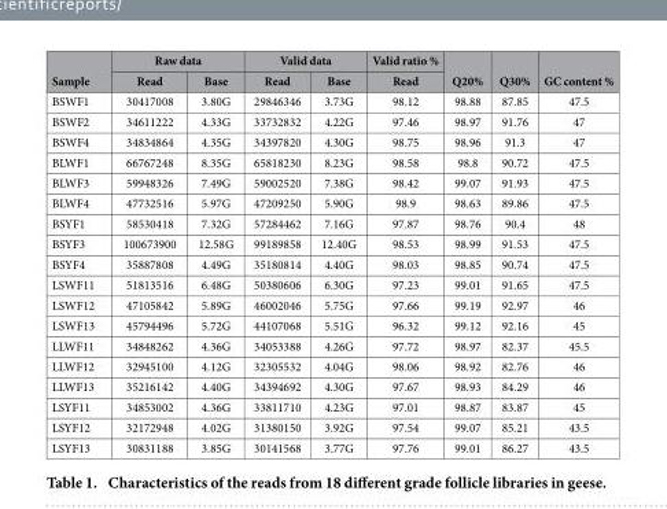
<table><thead><tr><td rowspan="2">Sample</td><td colspan="2">Raw data</td><td colspan="2">Valid data</td><td rowspan="2">Valid ratio % Read</td><td rowspan="2">Q20%</td><td rowspan="2">Q30%</td><td rowspan="2">GC content %</td></tr><tr><td>Read</td><td>Base</td><td>Read</td><td>Base</td></tr></thead><tbody><tr><td>BSWF1</td><td>30417008</td><td>3.80G</td><td>29846346</td><td>3.73G</td><td>98.12</td><td>98.88</td><td>87.85</td><td>47.5</td></tr><tr><td>BSWF2</td><td>34611222</td><td>4.33G</td><td>33732832</td><td>4.22G</td><td>97.46</td><td>98.97</td><td>91.76</td><td>47</td></tr><tr><td>BSWF4</td><td>34834864</td><td>4.35G</td><td>34397820</td><td>4.30G</td><td>98.75</td><td>98.96</td><td>91.3</td><td>47</td></tr><tr><td>BLWF1</td><td>66767248</td><td>8.35G</td><td>65818230</td><td>8.23G</td><td>98.58</td><td>98.8</td><td>90.72</td><td>47.5</td></tr><tr><td>BLWF3</td><td>59948326</td><td>7.49G</td><td>59002520</td><td>7.38G</td><td>98.42</td><td>99.07</td><td>91.93</td><td>47.5</td></tr><tr><td>BLWF4</td><td>47732516</td><td>5.97G</td><td>47209250</td><td>5.90G</td><td>98.9</td><td>98.63</td><td>89.86</td><td>47.5</td></tr><tr><td>BSYF1</td><td>58530418</td><td>7.32G</td><td>57284462</td><td>7.16G</td><td>97.87</td><td>98.76</td><td>90.4</td><td>48</td></tr><tr><td>BSYF3</td><td>100673900</td><td>12.58G</td><td>99189858</td><td>12.40G</td><td>98.53</td><td>98.99</td><td>91.53</td><td>47.5</td></tr><tr><td>BSYF4</td><td>35887808</td><td>4.49G</td><td>35180814</td><td>4.40G</td><td>98.03</td><td>98.85</td><td>90.74</td><td>47.5</td></tr><tr><td>LSWF11</td><td>51813516</td><td>6.48G</td><td>50380606</td><td>6.30G</td><td>97.23</td><td>99.01</td><td>91.65</td><td>47.5</td></tr><tr><td>LSWF12</td><td>47105842</td><td>5.89G</td><td>46002046</td><td>5.75G</td><td>97.66</td><td>99.19</td><td>92.97</td><td>46</td></tr><tr><td>LSWF13</td><td>45794496</td><td>5.72G</td><td>44107068</td><td>5.51G</td><td>96.32</td><td>99.12</td><td>92.16</td><td>45</td></tr><tr><td>LLWF11</td><td>34848262</td><td>4.36G</td><td>34053388</td><td>4.26G</td><td>97.72</td><td>98.97</td><td>82.37</td><td>45.5</td></tr><tr><td>LLWF12</td><td>32945100</td><td>4.12G</td><td>32305532</td><td>4.04G</td><td>98.06</td><td>98.92</td><td>82.76</td><td>46</td></tr><tr><td>LLWF13</td><td>35216142</td><td>4.40G</td><td>34394692</td><td>4.30G</td><td>97.67</td><td>98.93</td><td>84.29</td><td>46</td></tr><tr><td>LSYF11</td><td>34853002</td><td>4.36G</td><td>33811710</td><td>4.23G</td><td>97.01</td><td>98.87</td><td>83.87</td><td>45</td></tr><tr><td>LSYF12</td><td>32172948</td><td>4.02G</td><td>31380150</td><td>3.92G</td><td>97.54</td><td>99.07</td><td>85.21</td><td>43.5</td></tr><tr><td>LSYF13</td><td>30831188</td><td>3.85G</td><td>30141568</td><td>3.77G</td><td>97.76</td><td>99.01</td><td>86.27</td><td>43.5</td></tr></tbody></table>